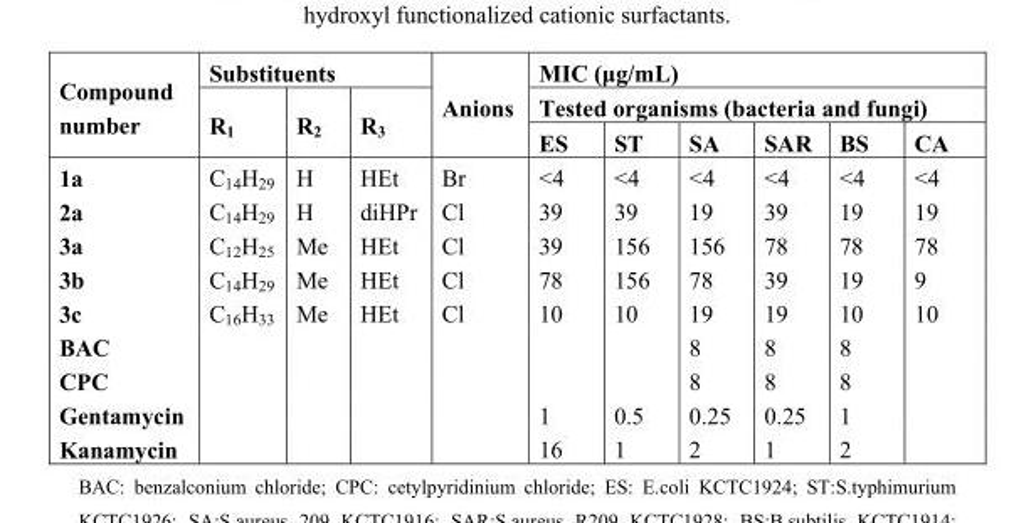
<table><thead><tr><td rowspan="3">Compound number</td><td colspan="3">Substituents</td><td rowspan="3">Anions</td><td rowspan="2" colspan="6">MIC (μg/mL) Tested organisms (bacteria and fungi)</td></tr><tr><td rowspan="2">R<sub>1</sub></td><td rowspan="2">R<sub>2</sub></td><td rowspan="2">R<sub>3</sub></td></tr><tr><td>ES</td><td>ST</td><td>SA</td><td>SAR</td><td>BS</td><td>CA</td></tr></thead><tbody><tr><td>1a</td><td>C<sub>14</sub>H<sub>29</sub></td><td>H</td><td>HEt</td><td>Br</td><td>&lt;4</td><td>&lt;4</td><td>&lt;4</td><td>&lt;4</td><td>&lt;4</td><td>&lt;4</td></tr><tr><td>2a</td><td>C<sub>14</sub>H<sub>29</sub></td><td>H</td><td>diHPr</td><td>Cl</td><td>39</td><td>39</td><td>19</td><td>39</td><td>19</td><td>19</td></tr><tr><td>3a</td><td>C<sub>12</sub>H<sub>25</sub></td><td>Me</td><td>HEt</td><td>Cl</td><td>39</td><td>156</td><td>156</td><td>78</td><td>78</td><td>78</td></tr><tr><td>3b</td><td>C<sub>14</sub>H<sub>29</sub></td><td>Me</td><td>HEt</td><td>Cl</td><td>78</td><td>156</td><td>78</td><td>39</td><td>19</td><td>9</td></tr><tr><td>3c</td><td>C<sub>16</sub>H<sub>33</sub></td><td>Me</td><td>HEt</td><td>Cl</td><td>10</td><td>10</td><td>19</td><td>19</td><td>10</td><td>10</td></tr><tr><td>BAC</td><td></td><td></td><td></td><td></td><td></td><td></td><td>8</td><td>8</td><td>8</td><td></td></tr><tr><td>CPC</td><td></td><td></td><td></td><td></td><td></td><td></td><td>8</td><td>8</td><td>8</td><td></td></tr><tr><td>Gentamycin</td><td></td><td></td><td></td><td></td><td>1</td><td>0.5</td><td>0.25</td><td>0.25</td><td>1</td><td></td></tr><tr><td>Kanamycin</td><td></td><td></td><td></td><td></td><td>16</td><td>1</td><td>2</td><td>1</td><td>2</td><td></td></tr></tbody></table>